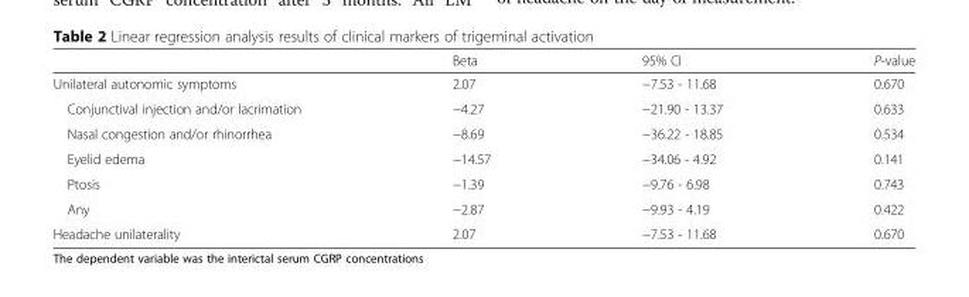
<table><thead><tr><td></td><td>Beta</td><td>95% CI</td><td>P-value</td></tr></thead><tbody><tr><td>Unilateral autonomic symptoms</td><td>2.07</td><td>−7.53 - 11.68</td><td>0.670</td></tr><tr><td>Conjunctival injection and/or lacrimation</td><td>−4.27</td><td>−21.90 - 13.37</td><td>0.633</td></tr><tr><td>Nasal congestion and/or rhinorrhea</td><td>−8.69</td><td>−36.22 - 18.85</td><td>0.534</td></tr><tr><td>Eyelid edema</td><td>−14.57</td><td>−34.06 - 4.92</td><td>0.141</td></tr><tr><td>Ptosis</td><td>−1.39</td><td>−9.76 - 6.98</td><td>0.743</td></tr><tr><td>Any</td><td>−2.87</td><td>−9.93 - 4.19</td><td>0.422</td></tr><tr><td>Headache unilaterality</td><td>2.07</td><td>−7.53 - 11.68</td><td>0.670</td></tr></tbody></table>